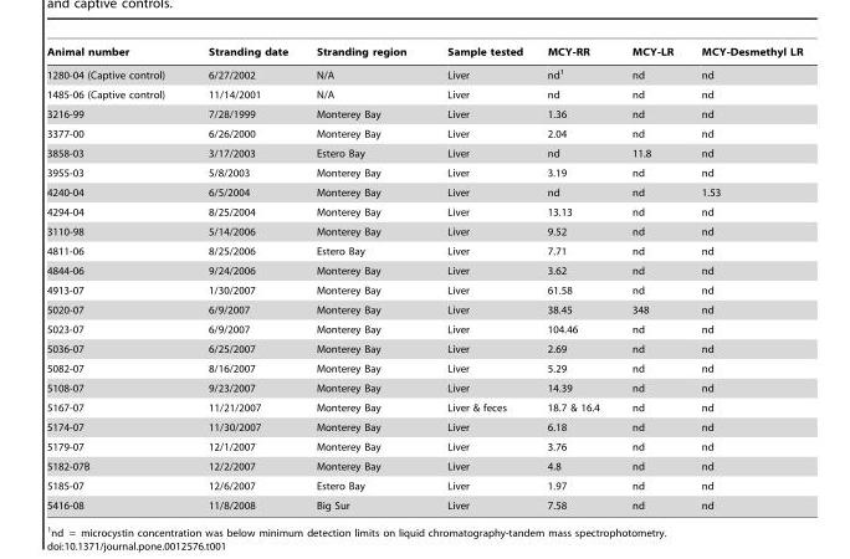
<table><thead><tr><td>Animal number</td><td>Stranding date</td><td>Stranding region</td><td>Sample tested</td><td>MCY-RR</td><td>MCY-LR</td><td>MCY-Desmethyl LR</td></tr></thead><tbody><tr><td>1280-04 (Captive control)</td><td>6/27/2002</td><td>N/A</td><td>Liver</td><td>nd<sup>1</sup></td><td>nd</td><td>nd</td></tr><tr><td>1485-06 (Captive control)</td><td>11/14/2001</td><td>N/A</td><td>Liver</td><td>nd</td><td>nd</td><td>nd</td></tr><tr><td>3216-99</td><td>7/28/1999</td><td>Monterey Bay</td><td>Liver</td><td>1.36</td><td>nd</td><td>nd</td></tr><tr><td>3377-00</td><td>6/26/2000</td><td>Monterey Bay</td><td>Liver</td><td>2.04</td><td>nd</td><td>nd</td></tr><tr><td>3858-03</td><td>3/17/2003</td><td>Estero Bay</td><td>Liver</td><td>nd</td><td>11.8</td><td>nd</td></tr><tr><td>3955-03</td><td>5/8/2003</td><td>Monterey Bay</td><td>Liver</td><td>3.19</td><td>nd</td><td>nd</td></tr><tr><td>4240-04</td><td>6/5/2004</td><td>Monterey Bay</td><td>Liver</td><td>nd</td><td>nd</td><td>1.53</td></tr><tr><td>4294-04</td><td>8/25/2004</td><td>Monterey Bay</td><td>Liver</td><td>13.13</td><td>nd</td><td>nd</td></tr><tr><td>3110-98</td><td>5/14/2006</td><td>Monterey Bay</td><td>Liver</td><td>9.52</td><td>nd</td><td>nd</td></tr><tr><td>4811-06</td><td>8/25/2006</td><td>Estero Bay</td><td>Liver</td><td>7.71</td><td>nd</td><td>nd</td></tr><tr><td>4844-06</td><td>9/24/2006</td><td>Monterey Bay</td><td>Liver</td><td>3.62</td><td>nd</td><td>nd</td></tr><tr><td>4913-07</td><td>1/30/2007</td><td>Monterey Bay</td><td>Liver</td><td>61.58</td><td>nd</td><td>nd</td></tr><tr><td>5020-07</td><td>6/9/2007</td><td>Monterey Bay</td><td>Liver</td><td>38.45</td><td>348</td><td>nd</td></tr><tr><td>5023-07</td><td>6/9/2007</td><td>Monterey Bay</td><td>Liver</td><td>104.46</td><td>nd</td><td>nd</td></tr><tr><td>5036-07</td><td>6/25/2007</td><td>Monterey Bay</td><td>Liver</td><td>2.69</td><td>nd</td><td>nd</td></tr><tr><td>5082-07</td><td>8/16/2007</td><td>Monterey Bay</td><td>Liver</td><td>5.29</td><td>nd</td><td>nd</td></tr><tr><td>5108-07</td><td>9/23/2007</td><td>Monterey Bay</td><td>Liver</td><td>14.39</td><td>nd</td><td>nd</td></tr><tr><td>5167-07</td><td>11/21/2007</td><td>Monterey Bay</td><td>Liver &amp; feces</td><td>18.7 &amp; 16.4</td><td>nd</td><td>nd</td></tr><tr><td>5174-07</td><td>11/30/2007</td><td>Monterey Bay</td><td>Liver</td><td>6.18</td><td>nd</td><td>nd</td></tr><tr><td>5179-07</td><td>12/1/2007</td><td>Monterey Bay</td><td>Liver</td><td>3.76</td><td>nd</td><td>nd</td></tr><tr><td>5182-07B</td><td>12/2/2007</td><td>Monterey Bay</td><td>Liver</td><td>4.8</td><td>nd</td><td>nd</td></tr><tr><td>5185-07</td><td>12/6/2007</td><td>Estero Bay</td><td>Liver</td><td>1.97</td><td>nd</td><td>nd</td></tr><tr><td>5416-08</td><td>11/8/2008</td><td>Big Sur</td><td>Liver</td><td>7.58</td><td>nd</td><td>nd</td></tr></tbody></table>